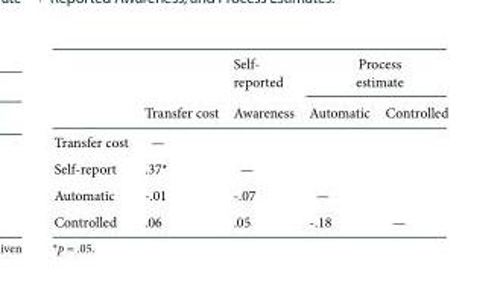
<table><thead><tr><td rowspan="2"></td><td rowspan="2">Transfer cost</td><td rowspan="2">Self- reported Awareness</td><td colspan="2">Process estimate</td></tr><tr><td>Automatic</td><td>Controlled</td></tr></thead><tbody><tr><td>Transfer cost</td><td>—</td><td></td><td></td><td></td></tr><tr><td>Self-report</td><td>.37*</td><td>—</td><td></td><td></td></tr><tr><td>Automatic</td><td>-.01</td><td>-.07</td><td>—</td><td></td></tr><tr><td>Controlled</td><td>.06</td><td>.05</td><td>-.18</td><td>—</td></tr></tbody></table>